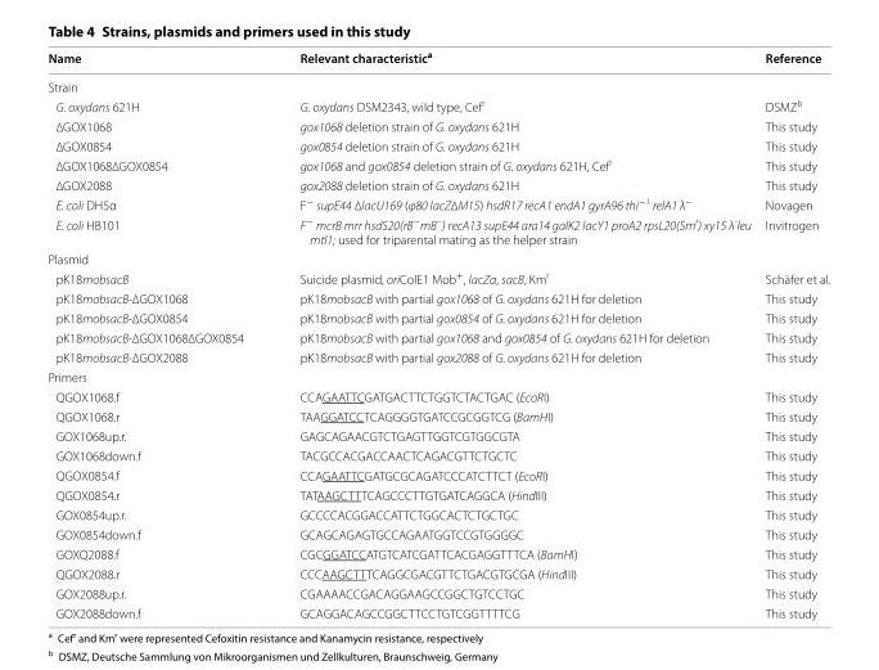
<table><thead><tr><td>Name</td><td>Relevant characteristic<sup>a</sup></td><td>Reference</td></tr></thead><tbody><tr><td colspan="3">Strain</td></tr><tr><td>G. oxydans 621H</td><td>G. oxydans DSM2343, wild type, Cef<sup>r</sup></td><td>DSMZ<sup>b</sup></td></tr><tr><td>∆GOX1068</td><td>gox1068 deletion strain of G. oxydans 621H</td><td>This study</td></tr><tr><td>∆GOX0854</td><td>gox0854 deletion strain of G. oxydans 621H</td><td>This study</td></tr><tr><td>∆GOX1068∆GOX0854</td><td>gox1068 and gox0854 deletion strain of G. oxydans 621H, Cef<sup>r</sup></td><td>This study</td></tr><tr><td>∆GOX2088</td><td>gox2088 deletion strain of G. oxydans 621H</td><td>This study</td></tr><tr><td>E. coli DH5α</td><td>F<sup>−</sup> supE44 ∆lacU169 (φ80 lacZ∆M15) hsdR17 recA1 endA1 gyrA96 thi<sup>−1</sup> relA1 λ<sup>−</sup></td><td>Novagen</td></tr><tr><td>E. coli HB101</td><td>F<sup>−</sup> mcrB mrr hsdS20(rB<sup>−</sup>mB<sup>−</sup>) recA13 supE44 ara14 galK2 lacY1 proA2 rpsL20(Sm<sup>r</sup>) xy15 λ<sup>-</sup>leu mtl1; used for triparental mating as the helper strain</td><td>Invitrogen</td></tr><tr><td colspan="3">Plasmid</td></tr><tr><td>pK18mobsacB</td><td>Suicide plasmid, oriColE1 Mob<sup>+</sup>, lacZα, sacB, Km<sup>r</sup></td><td>Schäfer et al.</td></tr><tr><td>pK18mobsacB-∆GOX1068</td><td>pK18mobsacB with partial gox1068 of G. oxydans 621H for deletion</td><td>This study</td></tr><tr><td>pK18mobsacB-∆GOX0854</td><td>pK18mobsacB with partial gox0854 of G. oxydans 621H for deletion</td><td>This study</td></tr><tr><td>pK18mobsacB-∆GOX1068∆GOX0854</td><td>pK18mobsacB with partial gox1068 and gox0854 of G. oxydans 621H for deletion</td><td>This study</td></tr><tr><td>pK18mobsacB-∆GOX2088</td><td>pK18mobsacB with partial gox2088 of G. oxydans 621H for deletion</td><td>This study</td></tr><tr><td colspan="3">Primers</td></tr><tr><td>QGOX1068.f</td><td>CCA GAA TTC GAT GAC TTC TGG TCT ACT GAC (EcoRI)</td><td>This study</td></tr><tr><td>QGOX1068.r</td><td>TAA GGA TCC TCA GGG GTG ATC CGC GGT CG (BamHI)</td><td>This study</td></tr><tr><td>GOX1068up.r.</td><td>GAG CAG AAC GTC TGA GTT GGT CGT GGC GTA</td><td>This study</td></tr><tr><td>GOX1068down.f</td><td>TAC GCC ACG ACC AAC TCA GAC GTT CTG CTC</td><td>This study</td></tr><tr><td>QGOX0854.f</td><td>CCA GAA TTC GAT GCG CAG ATC CCA TCT TCT (EcoRI)</td><td>This study</td></tr><tr><td>QGOX0854.r</td><td>TAT AAG CTT TCA GCC CTT GTG ATC AGG CA (HindIII)</td><td>This study</td></tr><tr><td>GOX0854up.r.</td><td>GCC CCA CGG ACC ATT CTG GCA CTC TGC TGC</td><td>This study</td></tr><tr><td>GOX0854down.f</td><td>GCA GCA GAG TGC CAG AAT GGT CCG TGG GGC</td><td>This study</td></tr><tr><td>GOXQ2088.f</td><td>CGC GGA TCC ATG TCA TCG ATT CAC GAG GTT TCA (BamHI)</td><td>This study</td></tr><tr><td>QGOX2088.r</td><td>CCC AAG CTT TCA GGC GAC GTT CTG ACG TGCGA (HindIII)</td><td>This study</td></tr><tr><td>GOX2088up.r.</td><td>CGA AAA CCG ACA GGA AGC CGG CTG TCC TGC</td><td>This study</td></tr><tr><td>GOX2088down.f</td><td>GCA GGA CAG CCG GCT TCC TGT CGG TTT TCG</td><td>This study</td></tr></tbody></table>